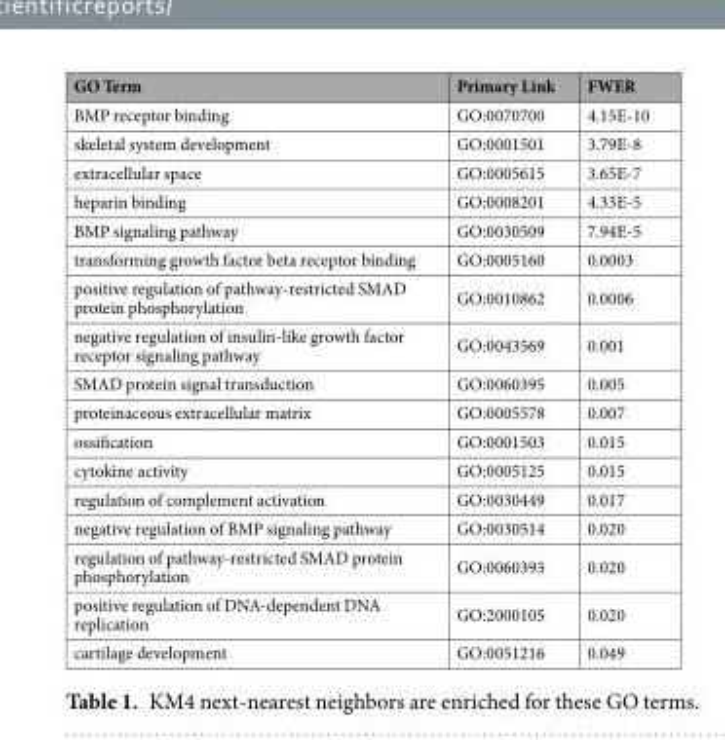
<table><thead><tr><td>GO Term</td><td>Primary Link</td><td>FWER</td></tr></thead><tbody><tr><td>BMP receptor binding</td><td>GO:0070700</td><td>4.15E-10</td></tr><tr><td>skeletal system development</td><td>GO:0001501</td><td>3.79E-8</td></tr><tr><td>extracellular space</td><td>GO:0005615</td><td>3.65E-7</td></tr><tr><td>heparin binding</td><td>GO:0008201</td><td>4.33E-5</td></tr><tr><td>BMP signaling pathway</td><td>GO:0030509</td><td>7.94E-5</td></tr><tr><td>transforming growth factor beta receptor binding</td><td>GO:0005160</td><td>0.0003</td></tr><tr><td>positive regulation of pathway-restricted SMAD protein phosphorylation</td><td>GO:0010862</td><td>0.0006</td></tr><tr><td>negative regulation of insulin-like growth factor receptor signaling pathway</td><td>GO:0043569</td><td>0.001</td></tr><tr><td>SMAD protein signal transduction</td><td>GO:0060395</td><td>0.005</td></tr><tr><td>proteinaceous extracellular matrix</td><td>GO:0005578</td><td>0.007</td></tr><tr><td>ossification</td><td>GO:0001503</td><td>0.015</td></tr><tr><td>cytokine activity</td><td>GO:0005125</td><td>0.015</td></tr><tr><td>regulation of complement activation</td><td>GO:0030449</td><td>0.017</td></tr><tr><td>negative regulation of BMP signaling pathway</td><td>GO:0030514</td><td>0.020</td></tr><tr><td>regulation of pathway-restricted SMAD protein phosphorylation</td><td>GO:0060393</td><td>0.020</td></tr><tr><td>positive regulation of DNA-dependent DNA replication</td><td>GO:2000105</td><td>0.020</td></tr><tr><td>cartilage development</td><td>GO:0051216</td><td>0.049</td></tr></tbody></table>